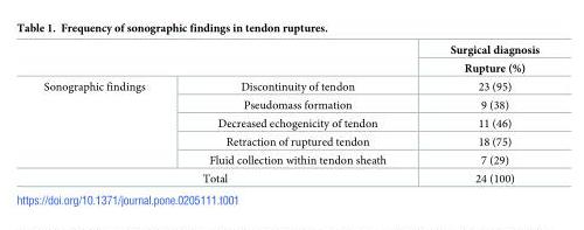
<table><thead><tr><td rowspan="2"></td><td rowspan="2"></td><td rowspan="2">Surgical diagnosis Rupture (%)</td></tr><tr></tr></thead><tbody><tr><td rowspan="5">Sonographic findings</td><td>Discontinuity of tendon</td><td>23 (95)</td></tr><tr><td>Pseudomass formation</td><td>9 (38)</td></tr><tr><td>Decreased echogenicity of tendon</td><td>11 (46)</td></tr><tr><td>Retraction of ruptured tendon</td><td>18 (75)</td></tr><tr><td>Fluid collection within tendon sheath</td><td>7 (29)</td></tr><tr><td colspan="2">Total</td><td>24 (100)</td></tr></tbody></table>